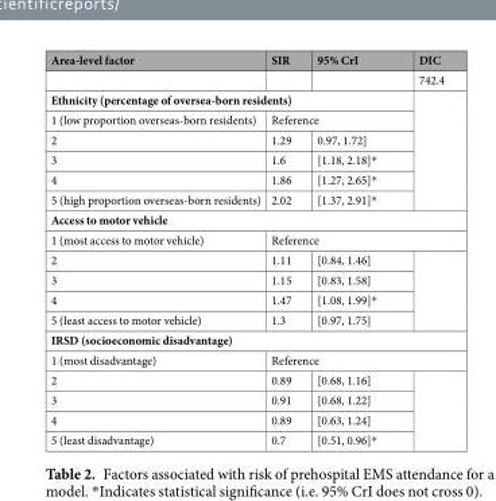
<table><thead><tr><td>Area-level factor</td><td>SIR</td><td>95% CrI</td><td>DIC</td></tr></thead><tbody><tr><td></td><td></td><td></td><td>742.4</td></tr><tr><td colspan="3">Ethnicity (percentage of oversea-born residents)</td><td rowspan="6"></td></tr><tr><td>1 (low proportion overseas-born residents)</td><td colspan="2">Reference</td></tr><tr><td>2</td><td>1.29</td><td>0.97, 1.72]</td></tr><tr><td>3</td><td>1.6</td><td>[1.18, 2.18]*</td></tr><tr><td>4</td><td>1.86</td><td>[1.27, 2.65]*</td></tr><tr><td>5 (high proportion overseas-born residents)</td><td>2.02</td><td>[1.37, 2.91]*</td></tr><tr><td colspan="4">Access to motor vehicle</td></tr><tr><td>1 (most access to motor vehicle)</td><td colspan="3">Reference</td></tr><tr><td>2</td><td>1.11</td><td>[0.84, 1.46]</td><td rowspan="4"></td></tr><tr><td>3</td><td>1.15</td><td>[0.83, 1.58]</td></tr><tr><td>4</td><td>1.47</td><td>[1.08, 1.99]*</td></tr><tr><td>5 (least access to motor vehicle)</td><td>1.3</td><td>[0.97, 1.75]</td></tr><tr><td colspan="4">IRSD (socioeconomic disadvantage)</td></tr><tr><td>1 (most disadvantage)</td><td colspan="3">Reference</td></tr><tr><td>2</td><td>0.89</td><td>[0.68, 1.16]</td><td rowspan="4"></td></tr><tr><td>3</td><td>0.91</td><td>[0.68, 1.22]</td></tr><tr><td>4</td><td>0.89</td><td>[0.63, 1.24]</td></tr><tr><td>5 (least disadvantage)</td><td>0.7</td><td>[0.51, 0.96]*</td></tr></tbody></table>